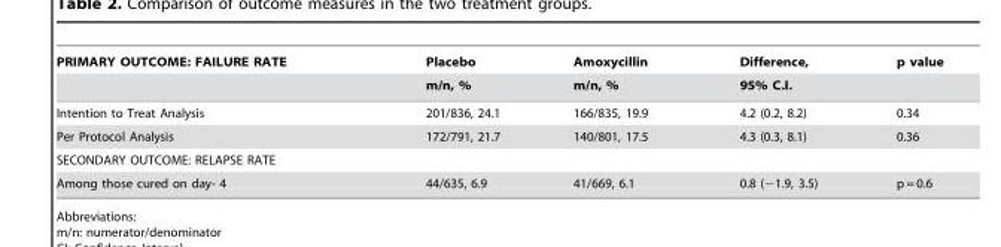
<table><thead><tr><td rowspan="2">PRIMARY OUTCOME: FAILURE RATE</td><td rowspan="2">Placebo m/n, %</td><td rowspan="2">Amoxycillin m/n, %</td><td rowspan="2">Difference, 95% C.I.</td><td rowspan="2">p value</td></tr><tr></tr></thead><tbody><tr><td>Intention to Treat Analysis</td><td>201/836, 24.1</td><td>166/835, 19.9</td><td>4.2 (0.2, 8.2)</td><td>0.34</td></tr><tr><td>Per Protocol Analysis</td><td>172/791, 21.7</td><td>140/801, 17.5</td><td>4.3 (0.3, 8.1)</td><td>0.36</td></tr><tr><td colspan="5">SECONDARY OUTCOME: RELAPSE RATE</td></tr><tr><td>Among those cured on day- 4</td><td>44/635, 6.9</td><td>41/669, 6.1</td><td>0.8 (−1.9, 3.5)</td><td>p = 0.6</td></tr></tbody></table>